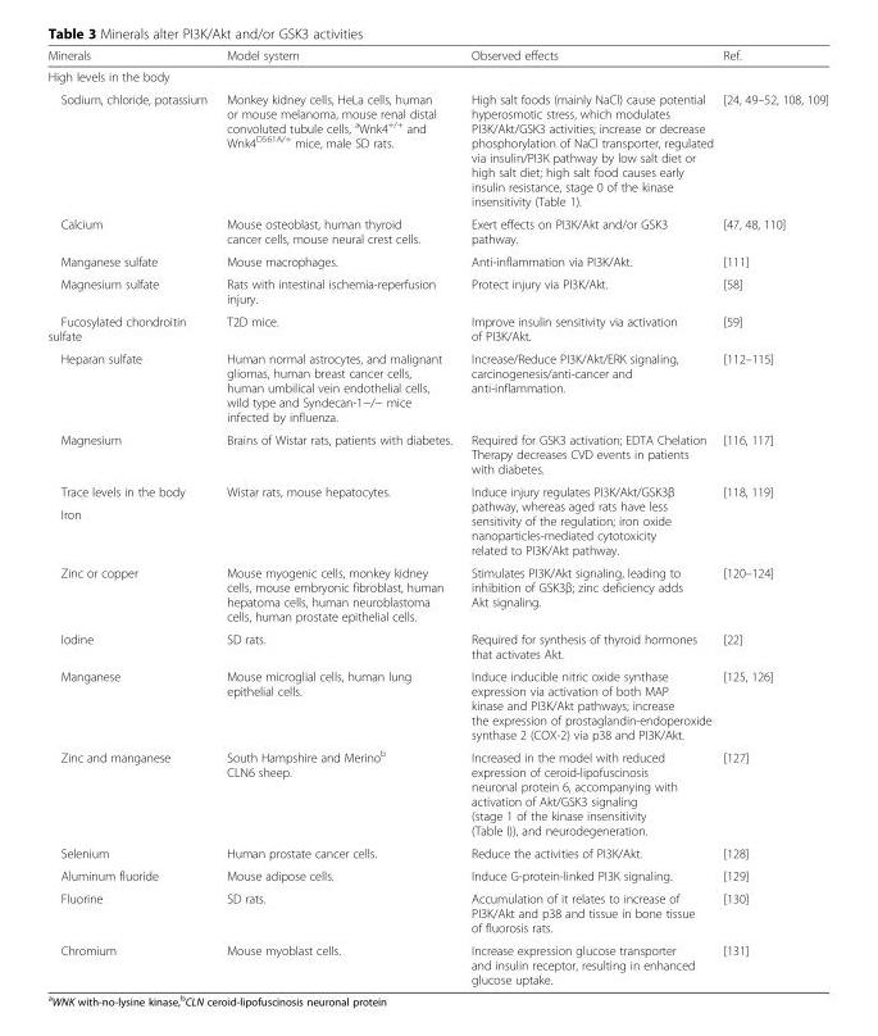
<table><thead><tr><td>Minerals</td><td>Model system</td><td>Observed effects</td><td>Ref.</td></tr></thead><tbody><tr><td colspan="4">High levels in the body</td></tr><tr><td>Sodium, chloride, potassium</td><td>Monkey kidney cells, HeLa cells, human or mouse melanoma, mouse renal distal convoluted tubule cells, <sup>a</sup>Wnk4<sup>+/+</sup> and Wnk4<sup>D561A/+</sup> mice, male SD rats.</td><td>High salt foods (mainly NaCl) cause potential hyperosmotic stress, which modulates PI3K/Akt/GSK3 activities; increase or decrease phosphorylation of NaCl transporter, regulated via insulin/PI3K pathway by low salt diet or high salt diet; high salt food causes early insulin resistance, stage 0 of the kinase insensitivity (Table 1).</td><td>[24, 49–52, 108, 109]</td></tr><tr><td>Calcium</td><td>Mouse osteoblast, human thyroid cancer cells, mouse neural crest cells.</td><td>Exert effects on PI3K/Akt and/or GSK3 pathway.</td><td>[47, 48, 110]</td></tr><tr><td>Manganese sulfate</td><td>Mouse macrophages.</td><td>Anti-inflammation via PI3K/Akt.</td><td>[111]</td></tr><tr><td>Magnesium sulfate</td><td>Rats with intestinal ischemia-reperfusion injury.</td><td>Protect injury via PI3K/Akt.</td><td>[58]</td></tr><tr><td>Fucosylated chondroitin sulfate</td><td>T2D mice.</td><td>Improve insulin sensitivity via activation of PI3K/Akt.</td><td>[59]</td></tr><tr><td>Heparan sulfate</td><td>Human normal astrocytes, and malignant gliomas, human breast cancer cells, human umbilical vein endothelial cells, wild type and Syndecan-1−/− mice infected by influenza.</td><td>Increase/Reduce PI3K/Akt/ERK signaling, carcinogenesis/anti-cancer and anti-inflammation.</td><td>[112–115]</td></tr><tr><td>Magnesium</td><td>Brains of Wistar rats, patients with diabetes.</td><td>Required for GSK3 activation; EDTA Chelation Therapy decreases CVD events in patients with diabetes.</td><td>[116, 117]</td></tr><tr><td>Trace levels in the body</td><td rowspan="2">Wistar rats, mouse hepatocytes.</td><td rowspan="2">Induce injury regulates PI3K/Akt/GSK3β pathway, whereas aged rats have less sensitivity of the regulation; iron oxide nanoparticles-mediated cytotoxicity related to PI3K/Akt pathway.</td><td rowspan="2">[118, 119]</td></tr><tr><td>Iron</td></tr><tr><td>Zinc or copper</td><td>Mouse myogenic cells, monkey kidney cells, mouse embryonic fibroblast, human hepatoma cells, human neuroblastoma cells, human prostate epithelial cells.</td><td>Stimulates PI3K/Akt signaling, leading to inhibition of GSK3β; zinc deficiency adds Akt signaling.</td><td>[120–124]</td></tr><tr><td>Iodine</td><td>SD rats.</td><td>Required for synthesis of thyroid hormones that activates Akt.</td><td>[22]</td></tr><tr><td>Manganese</td><td>Mouse microglial cells, human lung epithelial cells.</td><td>Induce inducible nitric oxide synthase expression via activation of both MAP kinase and PI3K/Akt pathways; increase the expression of prostaglandin-endoperoxide synthase 2 (COX-2) via p38 and PI3K/Akt.</td><td>[125, 126]</td></tr><tr><td>Zinc and manganese</td><td>South Hampshire and Merino<sup>b</sup> CLN6 sheep.</td><td>Increased in the model with reduced expression of ceroid-lipofuscinosis neuronal protein 6, accompanying with activation of Akt/GSK3 signaling (stage 1 of the kinase insensitivity (Table I)), and neurodegeneration.</td><td>[127]</td></tr><tr><td>Selenium</td><td>Human prostate cancer cells.</td><td>Reduce the activities of PI3K/Akt.</td><td>[128]</td></tr><tr><td>Aluminum fluoride</td><td>Mouse adipose cells.</td><td>Induce G-protein-linked PI3K signaling.</td><td>[129]</td></tr><tr><td>Fluorine</td><td>SD rats.</td><td>Accumulation of it relates to increase of PI3K/Akt and p38 and tissue in bone tissue of fluorosis rats.</td><td>[130]</td></tr><tr><td>Chromium</td><td>Mouse myoblast cells.</td><td>Increase expression glucose transporter and insulin receptor, resulting in enhanced glucose uptake.</td><td>[131]</td></tr></tbody></table>